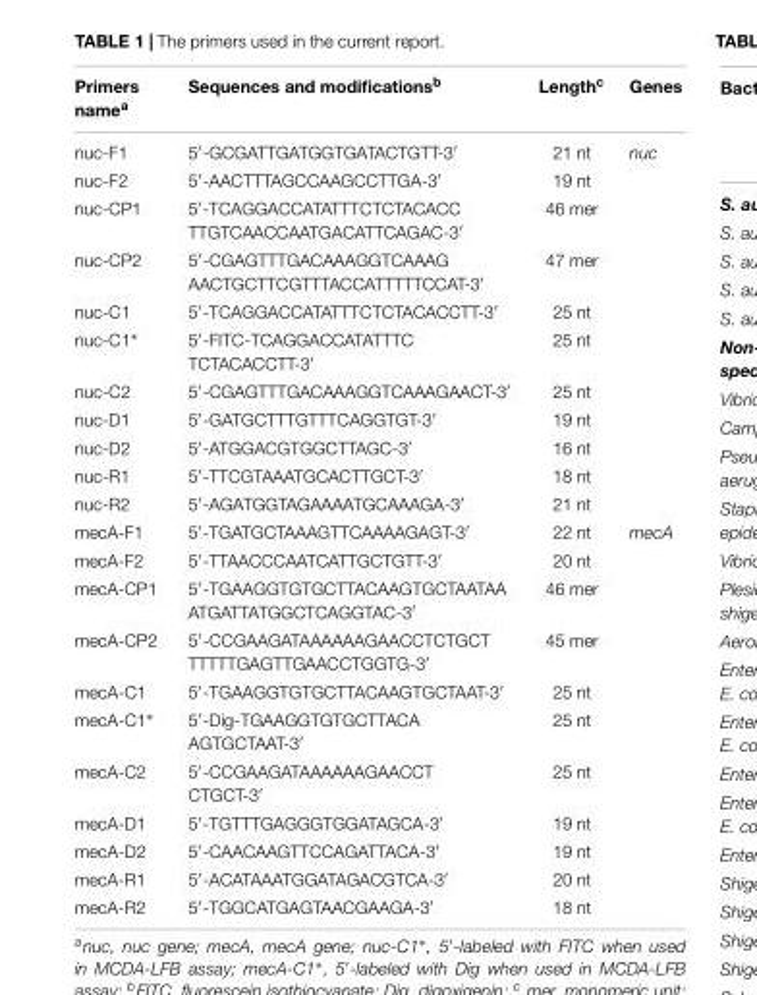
<table><thead><tr><td>Primers name<sup>a</sup></td><td>Sequences and modifications<sup>b</sup></td><td>Length<sup>c</sup></td><td>Genes</td></tr></thead><tbody><tr><td>nuc-F1</td><td>5′-GCGATTGATGGTGATACTGTT-3′</td><td>21 nt</td><td>nuc</td></tr><tr><td>nuc-F2</td><td>5′-AACTTTAGCCAAGCCTTGA-3′</td><td>19 nt</td><td></td></tr><tr><td>nuc-CP1</td><td>5′-TCAGGACCATATTTCTCTACACC TTGTCAACCAATGACATTCAGAC-3′</td><td>46 mer</td><td></td></tr><tr><td>nuc-CP2</td><td>5′-CGAGTTTGACAAAGGTCAAAG AACTGCTTCGTTTACCATTTTTCCAT-3′</td><td>47 mer</td><td></td></tr><tr><td>nuc-C1</td><td>5′-TCAGGACCATATTTCTCTACACCTT-3′</td><td>25 nt</td><td></td></tr><tr><td>nuc-C1∗</td><td>5′-FITC-TCAGGACCATATTTC TCTACACCTT-3′</td><td>25 nt</td><td></td></tr><tr><td>nuc-C2</td><td>5′-CGAGTTTGACAAAGGTCAAAGAACT-3′</td><td>25 nt</td><td></td></tr><tr><td>nuc-D1</td><td>5′-GATGCTTTGTTTCAGGTGT-3′</td><td>19 nt</td><td></td></tr><tr><td>nuc-D2</td><td>5′-ATGGACGTGGCTTAGC-3′</td><td>16 nt</td><td></td></tr><tr><td>nuc-R1</td><td>5′-TTCGTAAATGCACTTGCT-3′</td><td>18 nt</td><td></td></tr><tr><td>nuc-R2</td><td>5′-AGATGGTAGAAAATGCAAAGA-3′</td><td>21 nt</td><td></td></tr><tr><td>mecA-F1</td><td>5′-TGATGCTAAAGTTCAAAAGAGT-3′</td><td>22 nt</td><td>mecA</td></tr><tr><td>mecA-F2</td><td>5′-TTAACCCAATCATTGCTGTT-3′</td><td>20 nt</td><td></td></tr><tr><td>mecA-CP1</td><td>5′-TGAAGGTGTGCTTACAAGTGCTAATAA ATGATTATGGCTCAGGTAC-3′</td><td>46 mer</td><td></td></tr><tr><td>mecA-CP2</td><td>5′-CCGAAGATAAAAAAGAACCTCTGCT TTTTTGAGTTGAACCTGGTG-3′</td><td>45 mer</td><td></td></tr><tr><td>mecA-C1</td><td>5′-TGAAGGTGTGCTTACAAGTGCTAAT-3′</td><td>25 nt</td><td></td></tr><tr><td>mecA-C1∗</td><td>5′-Dig-TGAAGGTGTGCTTACA AGTGCTAAT-3′</td><td>25 nt</td><td></td></tr><tr><td>mecA-C2</td><td>5′-CCGAAGATAAAAAAGAACCT CTGCT-3′</td><td>25 nt</td><td></td></tr><tr><td>mecA-D1</td><td>5′-TGTTTGAGGGTGGATAGCA-3′</td><td>19 nt</td><td></td></tr><tr><td>mecA-D2</td><td>5′-CAACAAGTTCCAGATTACA-3′</td><td>19 nt</td><td></td></tr><tr><td>mecA-R1</td><td>5′-ACATAAATGGATAGACGTCA-3′</td><td>20 nt</td><td></td></tr><tr><td>mecA-R2</td><td>5′-TGGCATGAGTAACGAAGA-3′</td><td>18 nt</td><td></td></tr></tbody></table>